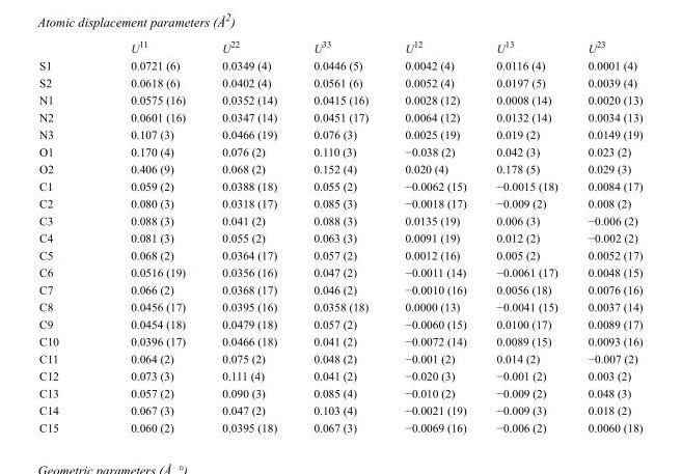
<table><thead><tr><td></td><td>U<sup>11</sup></td><td>U<sup>22</sup></td><td>U<sup>33</sup></td><td>U<sup>12</sup></td><td>U<sup>13</sup></td><td>U<sup>23</sup></td></tr></thead><tbody><tr><td>S1</td><td>0.0721 (6)</td><td>0.0349 (4)</td><td>0.0446 (5)</td><td>0.0042 (4)</td><td>0.0116 (4)</td><td>0.0001 (4)</td></tr><tr><td>S2</td><td>0.0618 (6)</td><td>0.0402 (4)</td><td>0.0561 (6)</td><td>0.0052 (4)</td><td>0.0197 (5)</td><td>0.0039 (4)</td></tr><tr><td>N1</td><td>0.0575 (16)</td><td>0.0352 (14)</td><td>0.0415 (16)</td><td>0.0028 (12)</td><td>0.0008 (14)</td><td>0.0020 (13)</td></tr><tr><td>N2</td><td>0.0601 (16)</td><td>0.0347 (14)</td><td>0.0451 (17)</td><td>0.0064 (12)</td><td>0.0132 (14)</td><td>0.0034 (13)</td></tr><tr><td>N3</td><td>0.107 (3)</td><td>0.0466 (19)</td><td>0.076 (3)</td><td>0.0025 (19)</td><td>0.019 (2)</td><td>0.0149 (19)</td></tr><tr><td>O1</td><td>0.170 (4)</td><td>0.076 (2)</td><td>0.110 (3)</td><td>−0.038 (2)</td><td>0.042 (3)</td><td>0.023 (2)</td></tr><tr><td>O2</td><td>0.406 (9)</td><td>0.068 (2)</td><td>0.152 (4)</td><td>0.020 (4)</td><td>0.178 (5)</td><td>0.029 (3)</td></tr><tr><td>C1</td><td>0.059 (2)</td><td>0.0388 (18)</td><td>0.055 (2)</td><td>−0.0062 (15)</td><td>−0.0015 (18)</td><td>0.0084 (17)</td></tr><tr><td>C2</td><td>0.080 (3)</td><td>0.0318 (17)</td><td>0.085 (3)</td><td>−0.0018 (17)</td><td>−0.009 (2)</td><td>0.008 (2)</td></tr><tr><td>C3</td><td>0.088 (3)</td><td>0.041 (2)</td><td>0.088 (3)</td><td>0.0135 (19)</td><td>0.006 (3)</td><td>−0.006 (2)</td></tr><tr><td>C4</td><td>0.081 (3)</td><td>0.055 (2)</td><td>0.063 (3)</td><td>0.0091 (19)</td><td>0.012 (2)</td><td>−0.002 (2)</td></tr><tr><td>C5</td><td>0.068 (2)</td><td>0.0364 (17)</td><td>0.057 (2)</td><td>0.0012 (16)</td><td>0.005 (2)</td><td>0.0052 (17)</td></tr><tr><td>C6</td><td>0.0516 (19)</td><td>0.0356 (16)</td><td>0.047 (2)</td><td>−0.0011 (14)</td><td>−0.0061 (17)</td><td>0.0048 (15)</td></tr><tr><td>C7</td><td>0.066 (2)</td><td>0.0368 (17)</td><td>0.046 (2)</td><td>−0.0010 (16)</td><td>0.0056 (18)</td><td>0.0076 (16)</td></tr><tr><td>C8</td><td>0.0456 (17)</td><td>0.0395 (16)</td><td>0.0358 (18)</td><td>0.0000 (13)</td><td>−0.0041 (15)</td><td>0.0037 (14)</td></tr><tr><td>C9</td><td>0.0454 (18)</td><td>0.0479 (18)</td><td>0.057 (2)</td><td>−0.0060 (15)</td><td>0.0100 (17)</td><td>0.0089 (17)</td></tr><tr><td>C10</td><td>0.0396 (17)</td><td>0.0466 (18)</td><td>0.041 (2)</td><td>−0.0072 (14)</td><td>0.0089 (15)</td><td>0.0093 (16)</td></tr><tr><td>C11</td><td>0.064 (2)</td><td>0.075 (2)</td><td>0.048 (2)</td><td>−0.001 (2)</td><td>0.014 (2)</td><td>−0.007 (2)</td></tr><tr><td>C12</td><td>0.073 (3)</td><td>0.111 (4)</td><td>0.041 (2)</td><td>−0.020 (3)</td><td>−0.001 (2)</td><td>0.003 (2)</td></tr><tr><td>C13</td><td>0.057 (2)</td><td>0.090 (3)</td><td>0.085 (4)</td><td>−0.010 (2)</td><td>−0.009 (2)</td><td>0.048 (3)</td></tr><tr><td>C14</td><td>0.067 (3)</td><td>0.047 (2)</td><td>0.103 (4)</td><td>−0.0021 (19)</td><td>−0.009 (3)</td><td>0.018 (2)</td></tr><tr><td>C15</td><td>0.060 (2)</td><td>0.0395 (18)</td><td>0.067 (3)</td><td>−0.0069 (16)</td><td>−0.006 (2)</td><td>0.0060 (18)</td></tr></tbody></table>